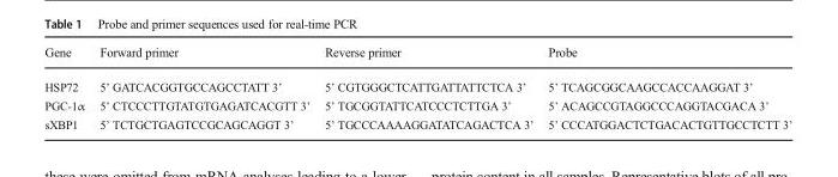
<table><thead><tr><td>Gene</td><td>Forward primer</td><td>Reverse primer</td><td>Probe</td></tr></thead><tbody><tr><td>HSP72</td><td>5’ GATCACGGTGCCAGCCTATT 3’</td><td>5’ CGTGGGCTCATTGATTATTCTCA 3’</td><td>5’ TCAGCGGCAAGCCACCAAGGAT 3’</td></tr><tr><td>PGC-1α</td><td>5’ CTCCCTTGTATGTGAGATCACGTT 3’</td><td>5’ TGCGGTATTCATCCCTCTTGA 3’</td><td>5’ ACAGCCGTAGGCCCAGGTACGACA 3’</td></tr><tr><td>sXBP1</td><td>5’ TCTGCTGAGTCCGCAGCAGGT 3’</td><td>5’ TGCCCAAAAGGATATCAGACTCA 3’</td><td>5’ CCCATGGACTCTGACACTGTTGCCTCTT 3’</td></tr></tbody></table>